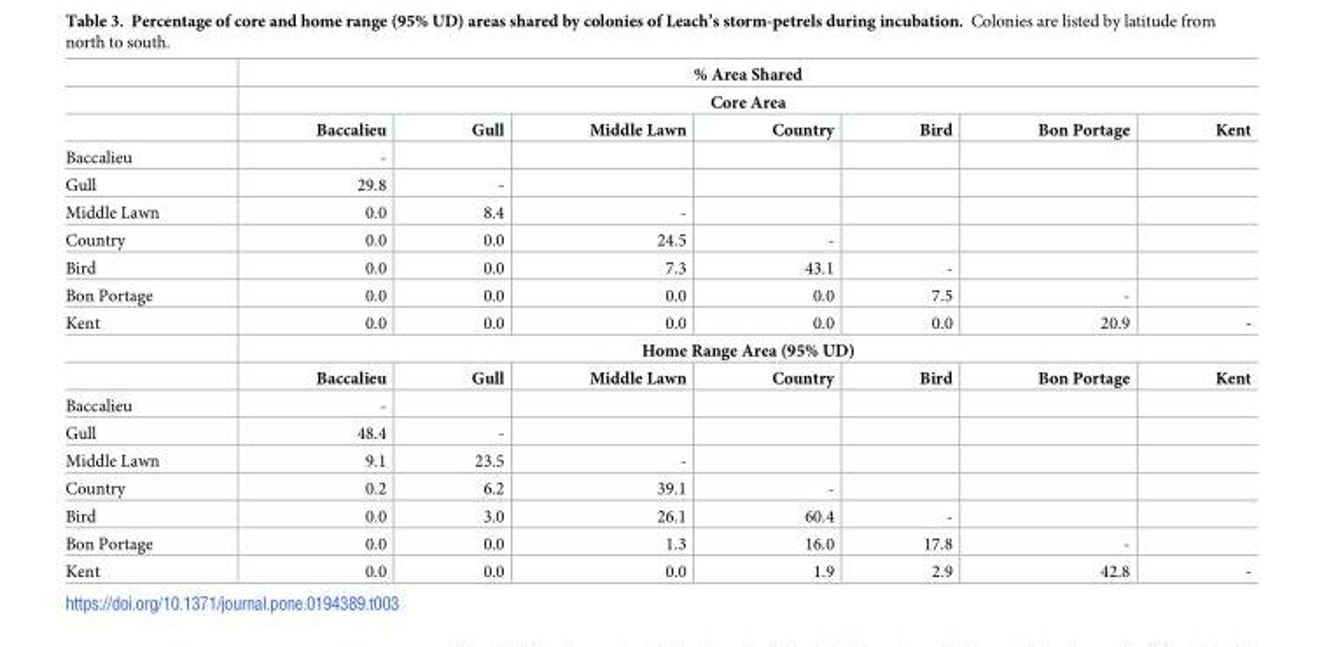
<table><thead><tr><td rowspan="3"></td><td rowspan="2" colspan="7">% Area Shared Core Area</td></tr><tr></tr><tr><td>Baccalieu</td><td>Gull</td><td>Middle Lawn</td><td>Country</td><td>Bird</td><td>Bon Portage</td><td>Kent</td></tr></thead><tbody><tr><td>Baccalieu</td><td>-</td><td></td><td></td><td></td><td></td><td></td><td></td></tr><tr><td>Gull</td><td>29.8</td><td>-</td><td></td><td></td><td></td><td></td><td></td></tr><tr><td>Middle Lawn</td><td>0.0</td><td>8.4</td><td>-</td><td></td><td></td><td></td><td></td></tr><tr><td>Country</td><td>0.0</td><td>0.0</td><td>24.5</td><td>-</td><td></td><td></td><td></td></tr><tr><td>Bird</td><td>0.0</td><td>0.0</td><td>7.3</td><td>43.1</td><td>-</td><td></td><td></td></tr><tr><td>Bon Portage</td><td>0.0</td><td>0.0</td><td>0.0</td><td>0.0</td><td>7.5</td><td>-</td><td></td></tr><tr><td rowspan="3">Kent</td><td>0.0</td><td>0.0</td><td>0.0</td><td>0.0</td><td>0.0</td><td>20.9</td><td>-</td></tr><tr><td colspan="7">Home Range Area (95% UD)</td></tr><tr><td>Baccalieu</td><td>Gull</td><td>Middle Lawn</td><td>Country</td><td>Bird</td><td>Bon Portage</td><td>Kent</td></tr><tr><td>Baccalieu</td><td>-</td><td></td><td></td><td></td><td></td><td></td><td></td></tr><tr><td>Gull</td><td>48.4</td><td>-</td><td></td><td></td><td></td><td></td><td></td></tr><tr><td>Middle Lawn</td><td>9.1</td><td>23.5</td><td>-</td><td></td><td></td><td></td><td></td></tr><tr><td>Country</td><td>0.2</td><td>6.2</td><td>39.1</td><td>-</td><td></td><td></td><td></td></tr><tr><td>Bird</td><td>0.0</td><td>3.0</td><td>26.1</td><td>60.4</td><td>-</td><td></td><td></td></tr><tr><td>Bon Portage</td><td>0.0</td><td>0.0</td><td>1.3</td><td>16.0</td><td>17.8</td><td>-</td><td></td></tr><tr><td>Kent</td><td>0.0</td><td>0.0</td><td>0.0</td><td>1.9</td><td>2.9</td><td>42.8</td><td>-</td></tr></tbody></table>